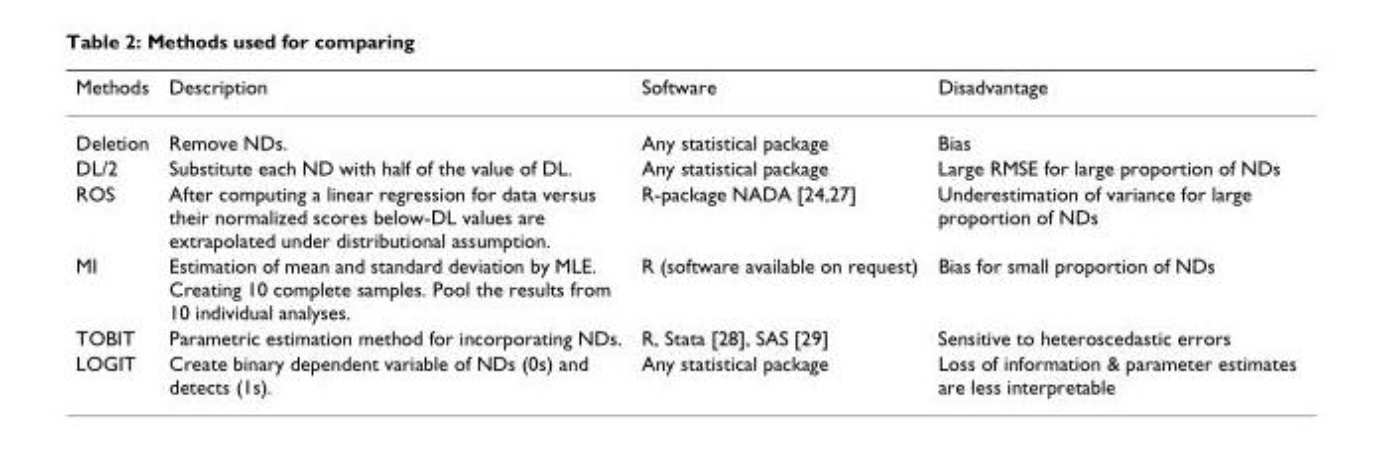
<table><thead><tr><td>Methods</td><td>Description</td><td>Software</td><td>Disadvantage</td></tr></thead><tbody><tr><td>Deletion</td><td>Remove NDs.</td><td>Any statistical package</td><td>Bias</td></tr><tr><td>DL/2</td><td>Substitute each ND with half of the value of DL.</td><td>Any statistical package</td><td>Large RMSE for large proportion of NDs</td></tr><tr><td>ROS</td><td>After computing a linear regression for data versus their normalized scores below-DL values are extrapolated under distributional assumption.</td><td>R-package NADA [24,27]</td><td>Underestimation of variance for large proportion of NDs</td></tr><tr><td>MI</td><td>Estimation of mean and standard deviation by MLE. Creating 10 complete samples. Pool the results from 10 individual analyses.</td><td>R (software available on request)</td><td>Bias for small proportion of NDs</td></tr><tr><td>TOBIT</td><td>Parametric estimation method for incorporating NDs.</td><td>R, Stata [28], SAS [29]</td><td>Sensitive to heteroscedastic errors</td></tr><tr><td>LOGIT</td><td>Create binary dependent variable of NDs (0s) and detects (1s).</td><td>Any statistical package</td><td>Loss of information &amp; parameter estimates are less interpretable</td></tr></tbody></table>